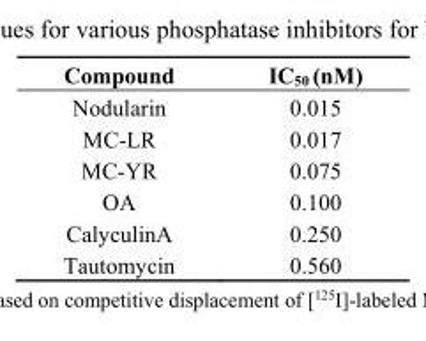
<table><thead><tr><td>Compound</td><td>IC<sub>50</sub> (nM)</td></tr></thead><tbody><tr><td>Nodularin</td><td>0.015</td></tr><tr><td>MC-LR</td><td>0.017</td></tr><tr><td>MC-YR</td><td>0.075</td></tr><tr><td>OA</td><td>0.100</td></tr><tr><td>CalyculinA</td><td>0.250</td></tr><tr><td>Tautomycin</td><td>0.560</td></tr></tbody></table>